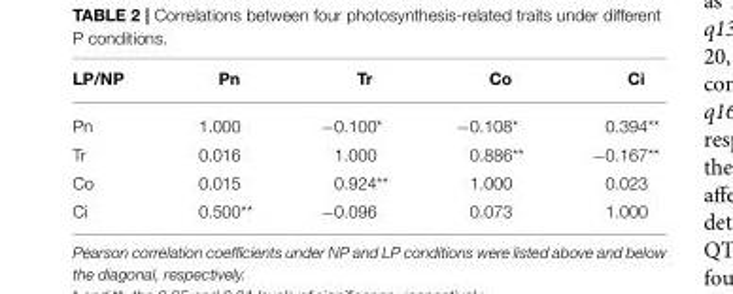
<table><thead><tr><td>LP/NP</td><td>Pn</td><td>Tr</td><td>Co</td><td>Ci</td></tr></thead><tbody><tr><td>Pn</td><td>1.000</td><td>−0.100*</td><td>−0.108*</td><td>0.394**</td></tr><tr><td>Tr</td><td>0.016</td><td>1.000</td><td>0.886**</td><td>−0.167**</td></tr><tr><td>Co</td><td>0.015</td><td>0.924**</td><td>1.000</td><td>0.023</td></tr><tr><td>Ci</td><td>0.500**</td><td>−0.096</td><td>0.073</td><td>1.000</td></tr></tbody></table>